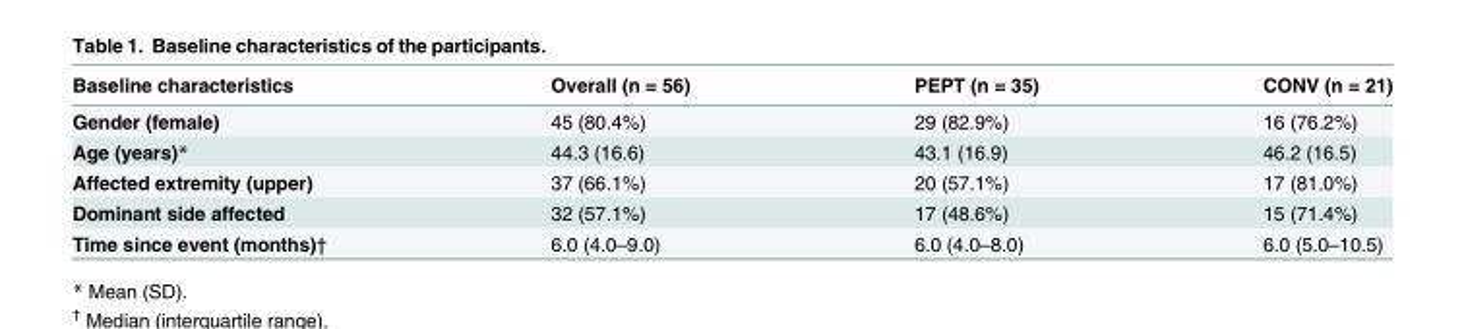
<table><thead><tr><td>Baseline characteristics</td><td>Overall (n = 56)</td><td>PEPT (n = 35)</td><td>CONV (n = 21)</td></tr></thead><tbody><tr><td>Gender (female)</td><td>45 (80.4%)</td><td>29 (82.9%)</td><td>16 (76.2%)</td></tr><tr><td>Age (years)*</td><td>44.3 (16.6)</td><td>43.1 (16.9)</td><td>46.2 (16.5)</td></tr><tr><td>Affected extremity (upper)</td><td>37 (66.1%)</td><td>20 (57.1%)</td><td>17 (81.0%)</td></tr><tr><td>Dominant side affected</td><td>32 (57.1%)</td><td>17 (48.6%)</td><td>15 (71.4%)</td></tr><tr><td>Time since event (months)†</td><td>6.0 (4.0–9.0)</td><td>6.0 (4.0–8.0)</td><td>6.0 (5.0–10.5)</td></tr></tbody></table>